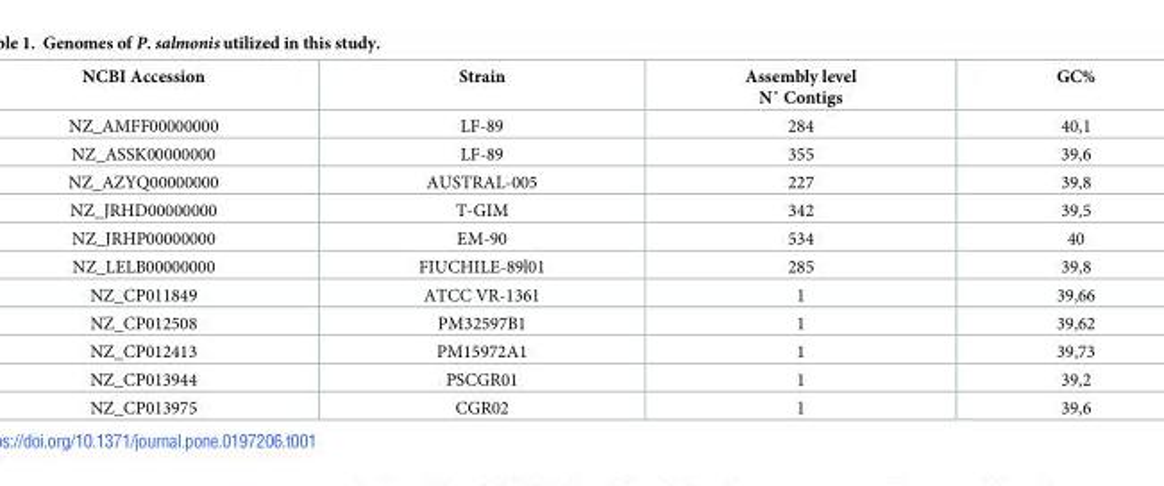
<table><thead><tr><td>NCBI Accession</td><td>Strain</td><td>Assembly level N˚ Contigs</td><td>GC%</td></tr></thead><tbody><tr><td>NZ_AMFF00000000</td><td>LF-89</td><td>284</td><td>40,1</td></tr><tr><td>NZ_ASSK00000000</td><td>LF-89</td><td>355</td><td>39,6</td></tr><tr><td>NZ_AZYQ00000000</td><td>AUSTRAL-005</td><td>227</td><td>39,8</td></tr><tr><td>NZ_JRHD00000000</td><td>T-GIM</td><td>342</td><td>39,5</td></tr><tr><td>NZ_JRHP00000000</td><td>EM-90</td><td>534</td><td>40</td></tr><tr><td>NZ_LELB00000000</td><td>FIUCHILE-89l01</td><td>285</td><td>39,8</td></tr><tr><td>NZ_CP011849</td><td>ATCC VR-1361</td><td>1</td><td>39,66</td></tr><tr><td>NZ_CP012508</td><td>PM32597B1</td><td>1</td><td>39,62</td></tr><tr><td>NZ_CP012413</td><td>PM15972A1</td><td>1</td><td>39,73</td></tr><tr><td>NZ_CP013944</td><td>PSCGR01</td><td>1</td><td>39,2</td></tr><tr><td>NZ_CP013975</td><td>CGR02</td><td>1</td><td>39,6</td></tr></tbody></table>